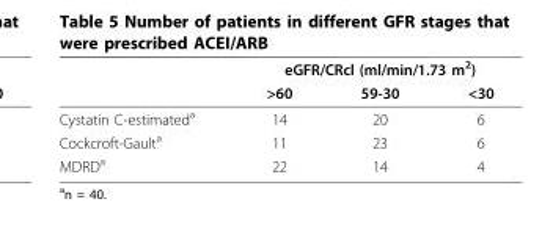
<table><thead><tr><td rowspan="2"></td><td colspan="3">eGFR/CRcl (ml/min/1.73 m<sup>2</sup>)</td></tr><tr><td>&gt;60</td><td>59-30</td><td>&lt;30</td></tr></thead><tbody><tr><td>Cystatin C-estimated<sup>a</sup></td><td>14</td><td>20</td><td>6</td></tr><tr><td>Cockcroft-Gault<sup>a</sup></td><td>11</td><td>23</td><td>6</td></tr><tr><td>MDRD<sup>a</sup></td><td>22</td><td>14</td><td>4</td></tr></tbody></table>